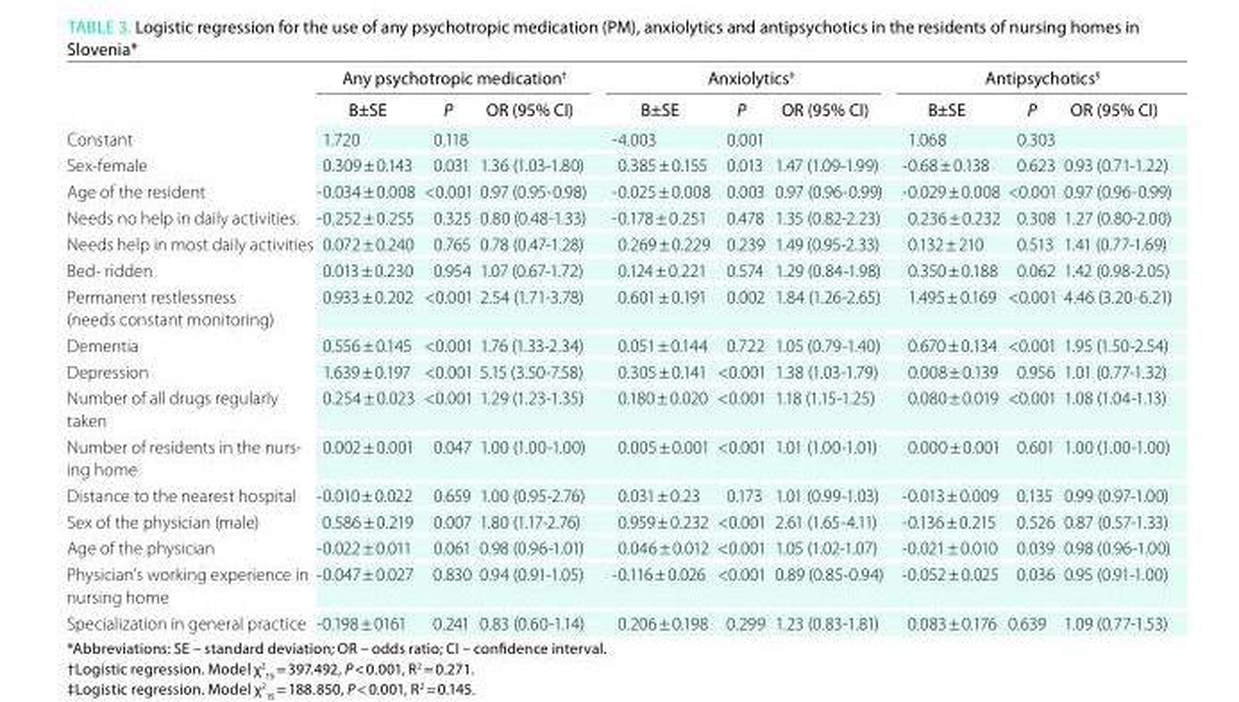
<table><thead><tr><td rowspan="2"></td><td colspan="3">any psychotropic medication<sup>†</sup></td><td colspan="3">anxiolytics<sup>‡</sup></td><td colspan="3">antipsychotics<sup>§</sup></td></tr><tr><td>b±sE</td><td>P</td><td>or (95% Ci)</td><td>b±sE</td><td>P</td><td>or (95% Ci)</td><td>b±sE</td><td>P</td><td>or (95% Ci)</td></tr></thead><tbody><tr><td>Constant</td><td>1.720</td><td>0.118</td><td></td><td>-4.003</td><td>0.001</td><td></td><td>1.068</td><td>0.303</td><td></td></tr><tr><td>Sex-female</td><td>0.309 ± 0.143</td><td>0.031</td><td>1.36 (1.03-1.80)</td><td>0.385 ± 0.155</td><td>0.013</td><td>1.47 (1.09-1.99)</td><td>-0.68 ± 0.138</td><td>0.623</td><td>0.93 (0.71-1.22)</td></tr><tr><td>Age of the resident</td><td>-0.034 ± 0.008</td><td>&lt;0.001</td><td>0.97 (0.95-0.98)</td><td>-0.025 ± 0.008</td><td>0.003</td><td>0.97 (0.96-0.99)</td><td>-0.029 ± 0.008</td><td>&lt;0.001</td><td>0.97 (0.96-0.99)</td></tr><tr><td>Needs no help in daily activities</td><td>-0.252 ± 0.255</td><td>0.325</td><td>0.80 (0.48-1.33)</td><td>-0.178 ± 0.251</td><td>0.478</td><td>1.35 (0.82-2.23)</td><td>0.236 ± 0.232</td><td>0.308</td><td>1.27 (0.80-2.00)</td></tr><tr><td>Needs help in most daily activities</td><td>0.072 ± 0.240</td><td>0.765</td><td>0.78 (0.47-1.28)</td><td>0.269 ± 0.229</td><td>0.239</td><td>1.49 (0.95-2.33)</td><td>0.132 ± 210</td><td>0.513</td><td>1.41 (0.77-1.69)</td></tr><tr><td>Bed- ridden</td><td>0.013 ± 0.230</td><td>0.954</td><td>1.07 (0.67-1.72)</td><td>0.124 ± 0.221</td><td>0.574</td><td>1.29 (0.84-1.98)</td><td>0.350 ± 0.188</td><td>0.062</td><td>1.42 (0.98-2.05)</td></tr><tr><td>Permanent restlessness (needs constant monitoring)</td><td>0.933 ± 0.202</td><td>&lt;0.001</td><td>2.54 (1.71-3.78)</td><td>0.601 ± 0.191</td><td>0.002</td><td>1.84 (1.26-2.65)</td><td>1.495 ± 0.169</td><td>&lt;0.001</td><td>4.46 (3.20-6.21)</td></tr><tr><td>Dementia</td><td>0.556 ± 0.145</td><td>&lt;0.001</td><td>1.76 (1.33-2.34)</td><td>0.051 ± 0.144</td><td>0.722</td><td>1.05 (0.79-1.40)</td><td>0.670 ± 0.134</td><td>&lt;0.001</td><td>1.95 (1.50-2.54)</td></tr><tr><td>Depression</td><td>1.639 ± 0.197</td><td>&lt;0.001</td><td>5.15 (3.50-7.58)</td><td>0.305 ± 0.141</td><td>&lt;0.001</td><td>1.38 (1.03-1.79)</td><td>0.008 ± 0.139</td><td>0.956</td><td>1.01 (0.77-1.32)</td></tr><tr><td>Number of all drugs regularly taken</td><td>0.254 ± 0.023</td><td>&lt;0.001</td><td>1.29 (1.23-1.35)</td><td>0.180 ± 0.020</td><td>&lt;0.001</td><td>1.18 (1.15-1.25)</td><td>0.080 ± 0.019</td><td>&lt;0.001</td><td>1.08 (1.04-1.13)</td></tr><tr><td>Number of residents in the nurs- ing home</td><td>0.002 ± 0.001</td><td>0.047</td><td>1.00 (1.00-1.00)</td><td>0.005 ± 0.001</td><td>&lt;0.001</td><td>1.01 (1.00-1.01)</td><td>0.000 ± 0.001</td><td>0.601</td><td>1.00 (1.00-1.00)</td></tr><tr><td>Distance to the nearest hospital</td><td>-0.010 ± 0.022</td><td>0.659</td><td>1.00 (0.95-2.76)</td><td>0.031 ± 0.23</td><td>0.173</td><td>1.01 (0.99-1.03)</td><td>-0.013 ± 0.009</td><td>0.135</td><td>0.99 (0.97-1.00)</td></tr><tr><td>Sex of the physician (male)</td><td>0.586 ± 0.219</td><td>0.007</td><td>1.80 (1.17-2.76)</td><td>0.959 ± 0.232</td><td>&lt;0.001</td><td>2.61 (1.65-4.11)</td><td>-0.136 ± 0.215</td><td>0.526</td><td>0.87 (0.57-1.33)</td></tr><tr><td>Age of the physician</td><td>-0.022 ± 0.011</td><td>0.061</td><td>0.98 (0.96-1.01)</td><td>0.046 ± 0.012</td><td>&lt;0.001</td><td>1.05 (1.02-1.07)</td><td>-0.021 ± 0.010</td><td>0.039</td><td>0.98 (0.96-1.00)</td></tr><tr><td>Physician’s working experience in nursing home</td><td>-0.047 ± 0.027</td><td>0.830</td><td>0.94 (0.91-1.05)</td><td>-0.116 ± 0.026</td><td>&lt;0.001</td><td>0.89 (0.85-0.94)</td><td>-0.052 ± 0.025</td><td>0.036</td><td>0.95 (0.91-1.00)</td></tr><tr><td>Specialization in general practice</td><td>-0.198 ± 0161</td><td>0.241</td><td>0.83 (0.60-1.14)</td><td>0.206 ± 0.198</td><td>0.299</td><td>1.23 (0.83-1.81)</td><td>0.083 ± 0.176</td><td>0.639</td><td>1.09 (0.77-1.53)</td></tr></tbody></table>